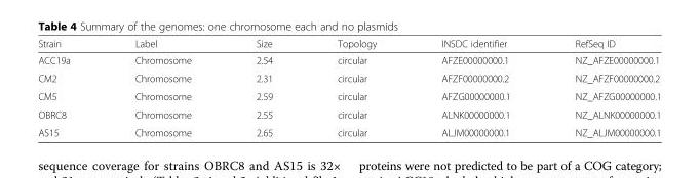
<table><thead><tr><td>Strain</td><td>Label</td><td>Size</td><td>Topology</td><td>INSDC identifier</td><td>RefSeq ID</td></tr></thead><tbody><tr><td>ACC19a</td><td>Chromosome</td><td>2.54</td><td>circular</td><td>AFZE00000000.1</td><td>NZ_AFZE00000000.1</td></tr><tr><td>CM2</td><td>Chromosome</td><td>2.31</td><td>circular</td><td>AFZF00000000.2</td><td>NZ_AFZF00000000.2</td></tr><tr><td>CM5</td><td>Chromosome</td><td>2.59</td><td>circular</td><td>AFZG00000000.1</td><td>NZ_AFZG00000000.1</td></tr><tr><td>OBRC8</td><td>Chromosome</td><td>2.55</td><td>circular</td><td>ALNK00000000.1</td><td>NZ_ALNK00000000.1</td></tr><tr><td>AS15</td><td>Chromosome</td><td>2.65</td><td>circular</td><td>ALJM00000000.1</td><td>NZ_ALJM00000000.1</td></tr></tbody></table>